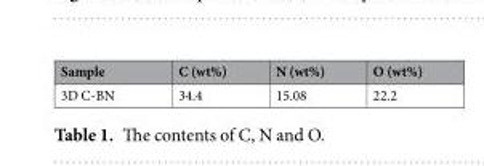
<table><thead><tr><td>Sample</td><td>C (wt%)</td><td>N (wt%)</td><td>O (wt%)</td></tr></thead><tbody><tr><td>3D C-BN</td><td>34.4</td><td>15.08</td><td>22.2</td></tr></tbody></table>